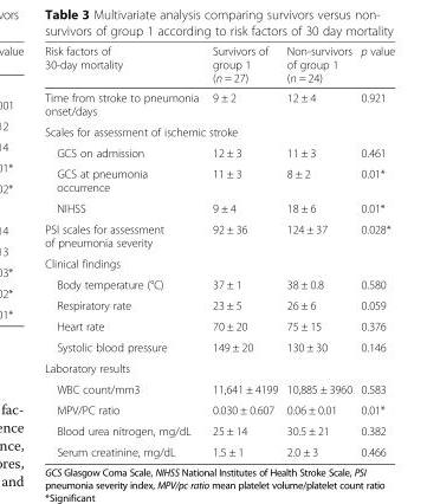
<table><thead><tr><td>Risk factors of 30-day mortality</td><td>Survivors of group 1 (n = 27)</td><td>Non-survivors of group 1 (n = 24)</td><td>p value</td></tr></thead><tbody><tr><td>Time from stroke to pneumonia onset/days</td><td>9 ± 2</td><td>12 ± 4</td><td>0.921</td></tr><tr><td colspan="4">Scales for assessment of ischemic stroke</td></tr><tr><td>GCS on admission</td><td>12 ± 3</td><td>11 ± 3</td><td>0.461</td></tr><tr><td>GCS at pneumonia occurrence</td><td>11 ± 3</td><td>8 ± 2</td><td>0.01*</td></tr><tr><td>NIHSS</td><td>9 ± 4</td><td>18 ± 6</td><td>0.01*</td></tr><tr><td>PSI scales for assessment of pneumonia severity</td><td>92 ± 36</td><td>124 ± 37</td><td>0.028*</td></tr><tr><td colspan="4">Clinical findings</td></tr><tr><td>Body temperature (°C)</td><td>37 ± 1</td><td>38 ± 0.8</td><td>0.580</td></tr><tr><td>Respiratory rate</td><td>23 ± 5</td><td>26 ± 6</td><td>0.059</td></tr><tr><td>Heart rate</td><td>70 ± 20</td><td>75 ± 15</td><td>0.376</td></tr><tr><td>Systolic blood pressure</td><td>149 ± 20</td><td>130 ± 30</td><td>0.146</td></tr><tr><td colspan="4">Laboratory results</td></tr><tr><td>WBC count/mm3</td><td>11,641 ± 4199</td><td>10,885 ± 3960</td><td>0.583</td></tr><tr><td>MPV/PC ratio</td><td>0.030 ± 0.607</td><td>0.06 ± 0.01</td><td>0.01*</td></tr><tr><td>Blood urea nitrogen, mg/dL</td><td>25 ± 14</td><td>30.5 ± 21</td><td>0.382</td></tr><tr><td>Serum creatinine, mg/dL</td><td>1.5 ± 1</td><td>2.0 ± 3</td><td>0.466</td></tr></tbody></table>